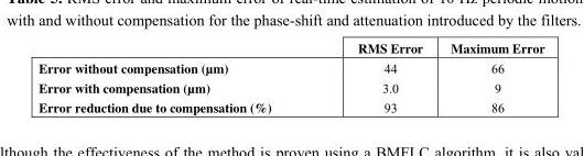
<table><thead><tr><td></td><td>RMS Error</td><td>Maximum Error</td></tr></thead><tbody><tr><td>Error without compensation (µm)</td><td>44</td><td>66</td></tr><tr><td>Error with compensation (µm)</td><td>3.0</td><td>9</td></tr><tr><td>Error reduction due to compensation (%)</td><td>93</td><td>86</td></tr></tbody></table>